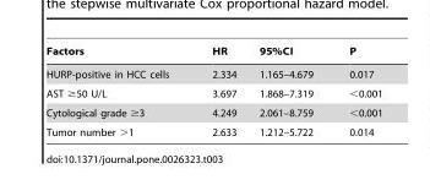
<table><thead><tr><td>Factors</td><td>HR</td><td>95%CI</td><td>P</td></tr></thead><tbody><tr><td>HURP-positive in HCC cells</td><td>2.334</td><td>1.165–4.679</td><td>0.017</td></tr><tr><td>AST ≥50 U/L</td><td>3.697</td><td>1.868–7.319</td><td>&lt;0.001</td></tr><tr><td>Cytological grade ≥3</td><td>4.249</td><td>2.061–8.759</td><td>&lt;0.001</td></tr><tr><td>Tumor number &gt;1</td><td>2.633</td><td>1.212–5.722</td><td>0.014</td></tr></tbody></table>